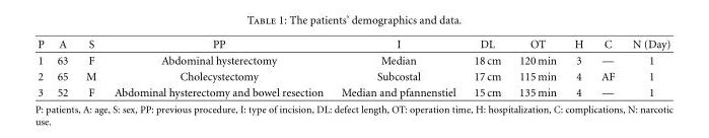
<table><thead><tr><td>P</td><td>A</td><td>S</td><td>PP</td><td>I</td><td>DL</td><td>OT</td><td>H</td><td>C</td><td>N (Day)</td></tr></thead><tbody><tr><td>1</td><td>63</td><td>F</td><td>Abdominal hysterectomy</td><td>Median</td><td>18 cm</td><td>120 min</td><td>3</td><td>—</td><td>1</td></tr><tr><td>2</td><td>65</td><td>M</td><td>Cholecystectomy</td><td>Subcostal</td><td>17 cm</td><td>115 min</td><td>4</td><td>AF</td><td>1</td></tr><tr><td>3</td><td>52</td><td>F</td><td>Abdominal hysterectomy and bowel resection</td><td>Median and pfannenstiel</td><td>15 cm</td><td>135 min</td><td>4</td><td>—</td><td>1</td></tr></tbody></table>